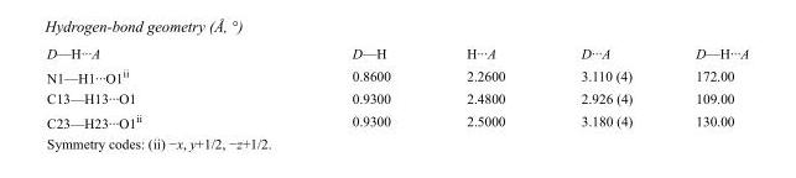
<table><tbody><tr><td>D—H···A</td><td>D—H</td><td>H···A</td><td>D···A</td><td>D—H···A</td></tr><tr><td>N1—H1···O1<sup>ii</sup></td><td>0.8600</td><td>2.2600</td><td>3.110 (4)</td><td>172.00</td></tr><tr><td>C13—H13···O1</td><td>0.9300</td><td>2.4800</td><td>2.926 (4)</td><td>109.00</td></tr><tr><td>C23—H23···O1<sup>ii</sup></td><td>0.9300</td><td>2.5000</td><td>3.180 (4)</td><td>130.00</td></tr></tbody></table>